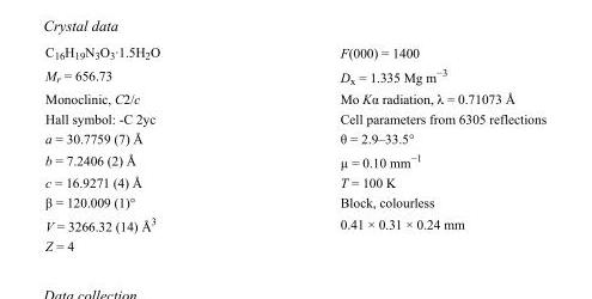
<table><tbody><tr><td>C<sub>16</sub>H<sub>19</sub>N<sub>3</sub>O<sub>3</sub>·1.5H<sub>2</sub>O</td><td>F(000) = 1400</td></tr><tr><td>M<sub>r</sub> = 656.73</td><td>D<sub>x</sub> = 1.335 Mg m<sup>−3</sup></td></tr><tr><td>Monoclinic, C2/c</td><td>Mo Kα radiation, λ = 0.71073 Å</td></tr><tr><td>Hall symbol: -C 2yc</td><td>Cell parameters from 6305 reflections</td></tr><tr><td>a = 30.7759 (7) Å</td><td>θ = 2.9–33.5°</td></tr><tr><td>b = 7.2406 (2) Å</td><td>µ = 0.10 mm<sup>−1</sup></td></tr><tr><td>c = 16.9271 (4) Å</td><td>T = 100 K</td></tr><tr><td>β = 120.009 (1)°</td><td>Block, colourless</td></tr><tr><td>V = 3266.32 (14) Å<sup>3</sup></td><td>0.41 × 0.31 × 0.24 mm</td></tr><tr><td>Z = 4</td><td></td></tr></tbody></table>